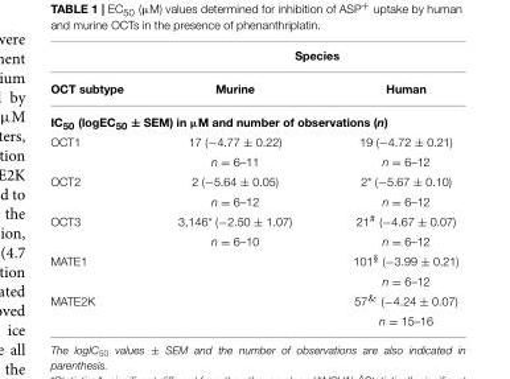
<table><thead><tr><td rowspan="2">OCT subtype</td><td colspan="2">Species</td></tr><tr><td>Murine</td><td>Human</td></tr></thead><tbody><tr><td colspan="3">IC<sub>50</sub> (logEC<sub>50</sub> ± SEM) in µM and number of observations (n)</td></tr><tr><td rowspan="2">OCT1</td><td>17 (−4.77 ± 0.22)</td><td>19 (−4.72 ± 0.21)</td></tr><tr><td>n = 6–11</td><td>n = 6–12</td></tr><tr><td rowspan="2">OCT2</td><td>2 (−5.64 ± 0.05)</td><td>2* (−5.67 ± 0.10)</td></tr><tr><td>n = 6–12</td><td>n = 6–12</td></tr><tr><td rowspan="2">OCT3</td><td>3,146* (−2.50 ± 1.07)</td><td>21<sup>#</sup> (−4.67 ± 0.07)</td></tr><tr><td>n = 6–10</td><td>n = 6–12</td></tr><tr><td rowspan="2">MATE1</td><td></td><td>101<sup>§</sup> (−3.99 ± 0.21)</td></tr><tr><td></td><td>n = 6–12</td></tr><tr><td rowspan="2">MATE2K</td><td></td><td>57<sup>&amp;</sup> (−4.24 ± 0.07)</td></tr><tr><td></td><td>n = 15–16</td></tr></tbody></table>